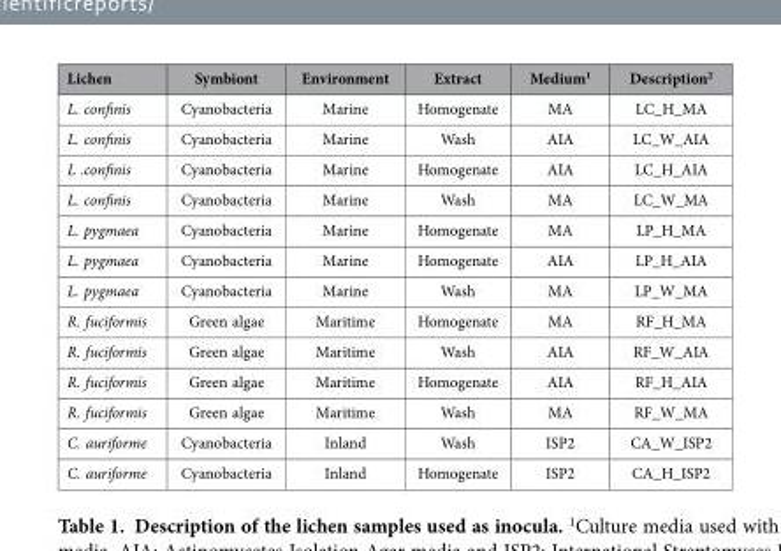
<table><thead><tr><td>Lichen</td><td>Symbiont</td><td>Environment</td><td>Extract</td><td>Medium<sup>1</sup></td><td>Description<sup>2</sup></td></tr></thead><tbody><tr><td>L. confinis</td><td>Cyanobacteria</td><td>Marine</td><td>Homogenate</td><td>MA</td><td>LC_H_MA</td></tr><tr><td>L. confinis</td><td>Cyanobacteria</td><td>Marine</td><td>Wash</td><td>AIA</td><td>LC_W_AIA</td></tr><tr><td>L .confinis</td><td>Cyanobacteria</td><td>Marine</td><td>Homogenate</td><td>AIA</td><td>LC_H_AIA</td></tr><tr><td>L. confinis</td><td>Cyanobacteria</td><td>Marine</td><td>Wash</td><td>MA</td><td>LC_W_MA</td></tr><tr><td>L. pygmaea</td><td>Cyanobacteria</td><td>Marine</td><td>Homogenate</td><td>MA</td><td>LP_H_MA</td></tr><tr><td>L. pygmaea</td><td>Cyanobacteria</td><td>Marine</td><td>Homogenate</td><td>AIA</td><td>LP_H_AIA</td></tr><tr><td>L. pygmaea</td><td>Cyanobacteria</td><td>Marine</td><td>Wash</td><td>MA</td><td>LP_W_MA</td></tr><tr><td>R. fuciformis</td><td>Green algae</td><td>Maritime</td><td>Homogenate</td><td>MA</td><td>RF_H_MA</td></tr><tr><td>R. fuciformis</td><td>Green algae</td><td>Maritime</td><td>Wash</td><td>AIA</td><td>RF_W_AIA</td></tr><tr><td>R. fuciformis</td><td>Green algae</td><td>Maritime</td><td>Homogenate</td><td>AIA</td><td>RF_H_AIA</td></tr><tr><td>R. fuciformis</td><td>Green algae</td><td>Maritime</td><td>Wash</td><td>MA</td><td>RF_W_MA</td></tr><tr><td>C. auriforme</td><td>Cyanobacteria</td><td>Inland</td><td>Wash</td><td>ISP2</td><td>CA_W_ISP2</td></tr><tr><td>C. auriforme</td><td>Cyanobacteria</td><td>Inland</td><td>Homogenate</td><td>ISP2</td><td>CA_H_ISP2</td></tr></tbody></table>